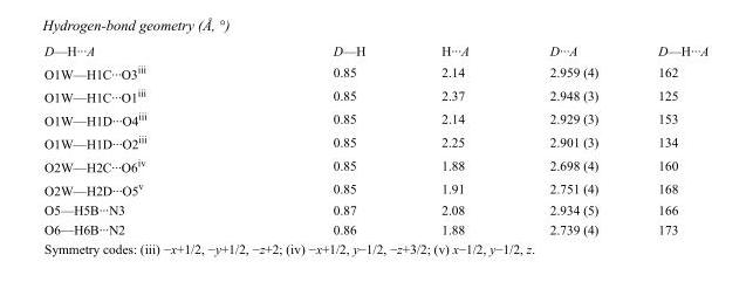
<table><tbody><tr><td>D—H···A</td><td>D—H</td><td>H···A</td><td>D···A</td><td>D—H···A</td></tr><tr><td>O1W—H1C···O3<sup>iii</sup></td><td>0.85</td><td>2.14</td><td>2.959 (4)</td><td>162</td></tr><tr><td>O1W—H1C···O1<sup>iii</sup></td><td>0.85</td><td>2.37</td><td>2.948 (3)</td><td>125</td></tr><tr><td>O1W—H1D···O4<sup>iii</sup></td><td>0.85</td><td>2.14</td><td>2.929 (3)</td><td>153</td></tr><tr><td>O1W—H1D···O2<sup>iii</sup></td><td>0.85</td><td>2.25</td><td>2.901 (3)</td><td>134</td></tr><tr><td>O2W—H2C···O6<sup>iv</sup></td><td>0.85</td><td>1.88</td><td>2.698 (4)</td><td>160</td></tr><tr><td>O2W—H2D···O5<sup>v</sup></td><td>0.85</td><td>1.91</td><td>2.751 (4)</td><td>168</td></tr><tr><td>O5—H5B···N3</td><td>0.87</td><td>2.08</td><td>2.934 (5)</td><td>166</td></tr><tr><td>O6—H6B···N2</td><td>0.86</td><td>1.88</td><td>2.739 (4)</td><td>173</td></tr></tbody></table>